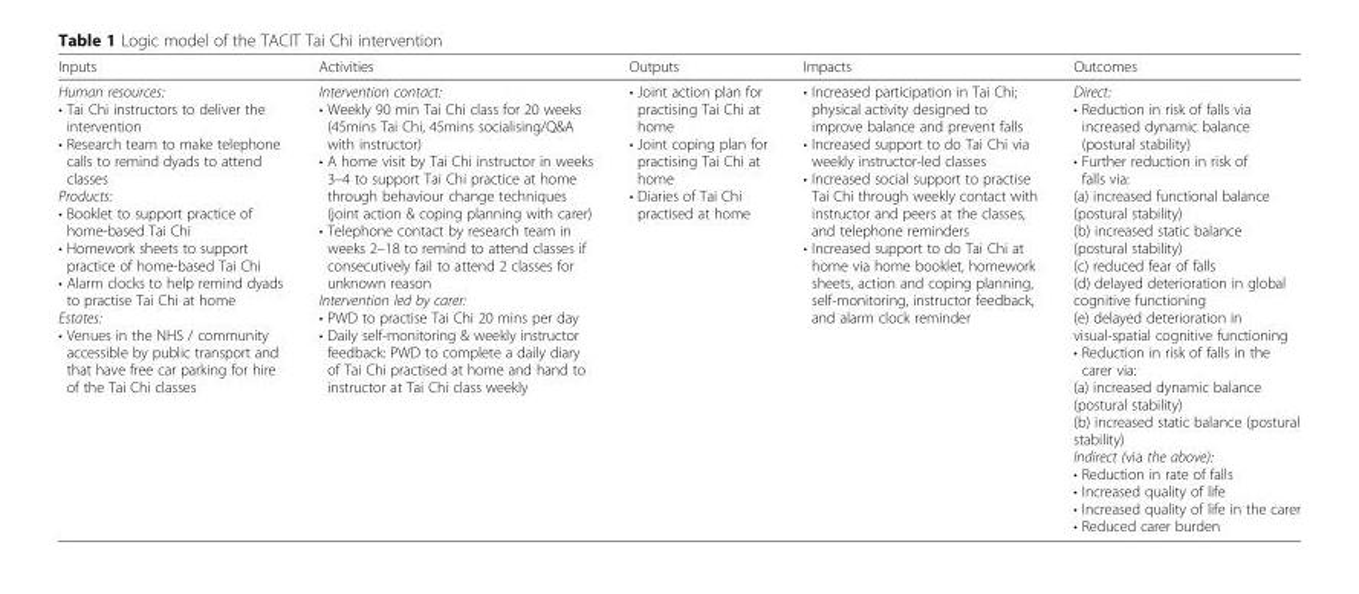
<table><thead><tr><td>Inputs</td><td>Activities</td><td>Outputs</td><td>Impacts</td><td>Outcomes</td></tr></thead><tbody><tr><td>Human resources: • Tai Chi instructors to deliver the intervention • Research team to make telephone calls to remind dyads to attend classes Products: • Booklet to support practice of home-based Tai Chi • Homework sheets to support practice of home-based Tai Chi • Alarm clocks to help remind dyads to practise Tai Chi at home Estates: • Venues in the NHS / community accessible by public transport and that have free car parking for hire of the Tai Chi classes</td><td>Intervention contact: • Weekly 90 min Tai Chi class for 20 weeks (45mins Tai Chi, 45mins socialising/Q&amp;A with instructor) • A home visit by Tai Chi instructor in weeks 3–4 to support Tai Chi practice at home through behaviour change techniques (joint action &amp; coping planning with carer) • Telephone contact by research team in weeks 2–18 to remind to attend classes if consecutively fail to attend 2 classes for unknown reason Intervention led by carer: • PWD to practise Tai Chi 20 mins per day • Daily self-monitoring &amp; weekly instructor feedback: PWD to complete a daily diary of Tai Chi practised at home and hand to instructor at Tai Chi class weekly</td><td>• Joint action plan for practising Tai Chi at home • Joint coping plan for practising Tai Chi at home • Diaries of Tai Chi practised at home</td><td>• Increased participation in Tai Chi; physical activity designed to improve balance and prevent falls • Increased support to do Tai Chi via weekly instructor-led classes • Increased social support to practise Tai Chi through weekly contact with instructor and peers at the classes, and telephone reminders • Increased support to do Tai Chi at home via home booklet, homework sheets, action and coping planning, self-monitoring, instructor feedback, and alarm clock reminder</td><td>Direct: • Reduction in risk of falls via increased dynamic balance (postural stability) • Further reduction in risk of falls via: (a) increased functional balance (postural stability) (b) increased static balance (postural stability) (c) reduced fear of falls (d) delayed deterioration in global cognitive functioning (e) delayed deterioration in visual-spatial cognitive functioning • Reduction in risk of falls in the carer via: (a) increased dynamic balance (postural stability) (b) increased static balance (postural stability) Indirect (via the above): • Reduction in rate of falls • Increased quality of life • Increased quality of life in the carer • Reduced carer burden</td></tr></tbody></table>